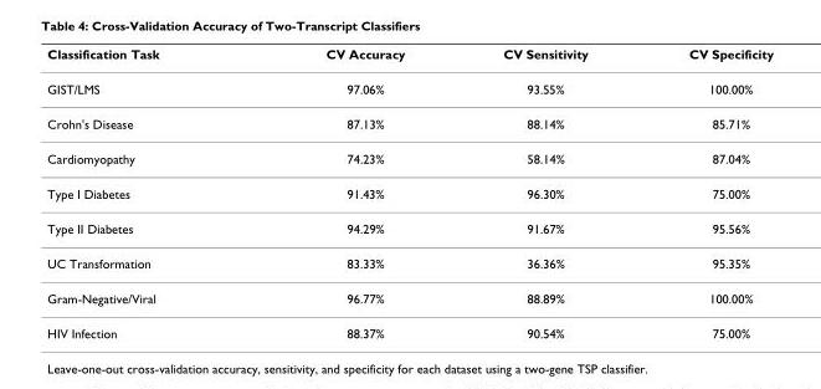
<table><thead><tr><td>Classification Task</td><td>CV Accuracy</td><td>CV Sensitivity</td><td>CV Specificity</td></tr></thead><tbody><tr><td>GIST/LMS</td><td>97.06%</td><td>93.55%</td><td>100.00%</td></tr><tr><td>Crohn&#x27;s Disease</td><td>87.13%</td><td>88.14%</td><td>85.71%</td></tr><tr><td>Cardiomyopathy</td><td>74.23%</td><td>58.14%</td><td>87.04%</td></tr><tr><td>Type I Diabetes</td><td>91.43%</td><td>96.30%</td><td>75.00%</td></tr><tr><td>Type II Diabetes</td><td>94.29%</td><td>91.67%</td><td>95.56%</td></tr><tr><td>UC Transformation</td><td>83.33%</td><td>36.36%</td><td>95.35%</td></tr><tr><td>Gram-Negative/Viral</td><td>96.77%</td><td>88.89%</td><td>100.00%</td></tr><tr><td>HIV Infection</td><td>88.37%</td><td>90.54%</td><td>75.00%</td></tr></tbody></table>